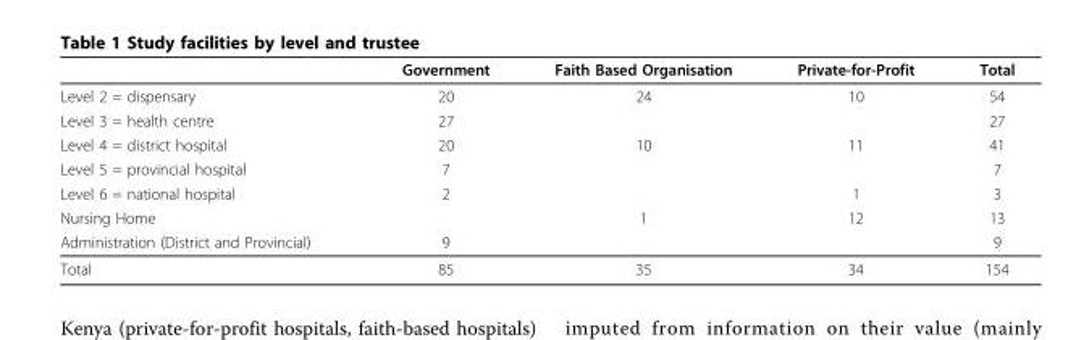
<table><thead><tr><td></td><td>Government</td><td>Faith Based Organisation</td><td>Private-for-Profit</td><td>Total</td></tr></thead><tbody><tr><td>Level 2 = dispensary</td><td>20</td><td>24</td><td>10</td><td>54</td></tr><tr><td>Level 3 = health centre</td><td>27</td><td></td><td></td><td>27</td></tr><tr><td>Level 4 = district hospital</td><td>20</td><td>10</td><td>11</td><td>41</td></tr><tr><td>Level 5 = provincial hospital</td><td>7</td><td></td><td></td><td>7</td></tr><tr><td>Level 6 = national hospital</td><td>2</td><td></td><td>1</td><td>3</td></tr><tr><td>Nursing Home</td><td></td><td>1</td><td>12</td><td>13</td></tr><tr><td>Administration (District and Provincial)</td><td>9</td><td></td><td></td><td>9</td></tr><tr><td>Total</td><td>85</td><td>35</td><td>34</td><td>154</td></tr></tbody></table>